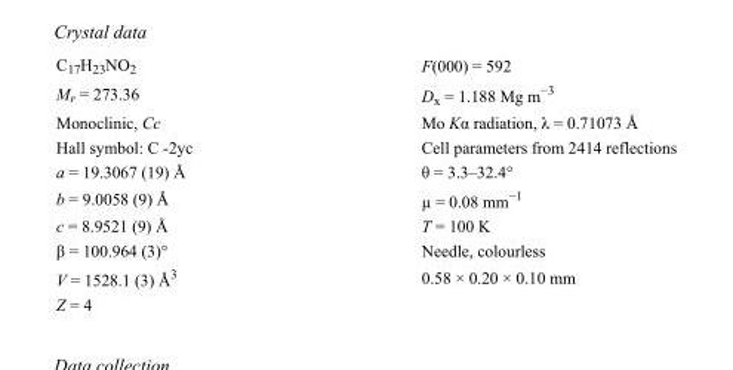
<table><tbody><tr><td>C<sub>17</sub>H<sub>23</sub>NO<sub>2</sub></td><td>F(000) = 592</td></tr><tr><td>M<sub>r</sub> = 273.36</td><td>D<sub>x</sub> = 1.188 Mg m<sup>−3</sup></td></tr><tr><td>Monoclinic, Cc</td><td>Mo Kα radiation, λ = 0.71073 Å</td></tr><tr><td>Hall symbol: C -2yc</td><td>Cell parameters from 2414 reflections</td></tr><tr><td>a = 19.3067 (19) Å</td><td>θ = 3.3–32.4°</td></tr><tr><td>b = 9.0058 (9) Å</td><td>µ = 0.08 mm<sup>−1</sup></td></tr><tr><td>c = 8.9521 (9) Å</td><td>T = 100 K</td></tr><tr><td>β = 100.964 (3)°</td><td>Needle, colourless</td></tr><tr><td>V = 1528.1 (3) Å<sup>3</sup></td><td>0.58 × 0.20 × 0.10 mm</td></tr><tr><td>Z = 4</td><td></td></tr></tbody></table>